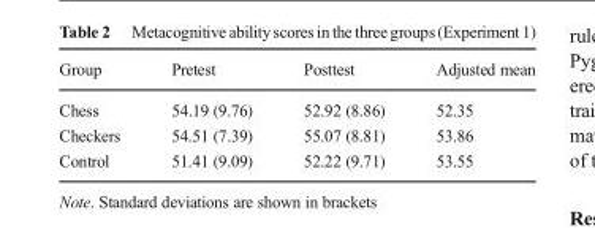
<table><thead><tr><td>Group</td><td>Pretest</td><td>Posttest</td><td>Adjusted mean</td></tr></thead><tbody><tr><td>Chess</td><td>54.19 (9.76)</td><td>52.92 (8.86)</td><td>52.35</td></tr><tr><td>Checkers</td><td>54.51 (7.39)</td><td>55.07 (8.81)</td><td>53.86</td></tr><tr><td>Control</td><td>51.41 (9.09)</td><td>52.22 (9.71)</td><td>53.55</td></tr></tbody></table>